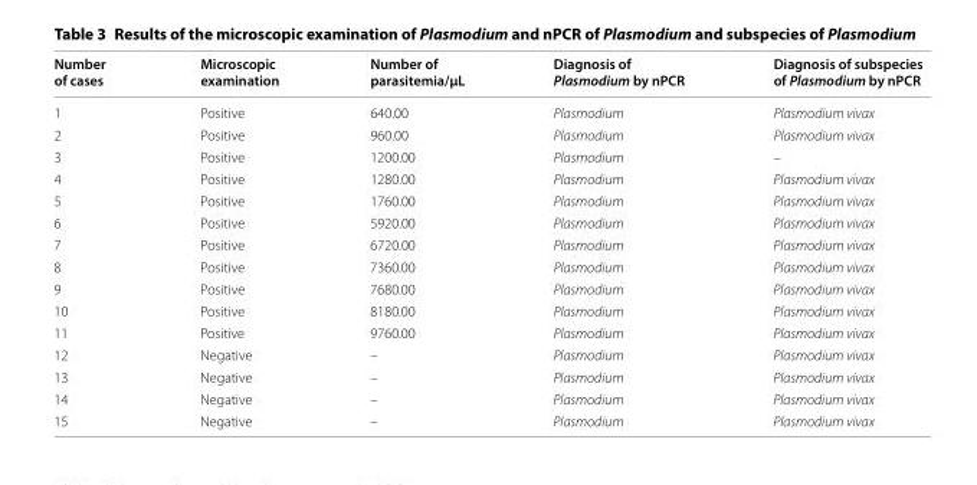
<table><thead><tr><td>Number of cases</td><td>Microscopic examination</td><td>Number of parasitemia/µL</td><td>Diagnosis of Plasmodium by nPCR</td><td>Diagnosis of subspecies of Plasmodium by nPCR</td></tr></thead><tbody><tr><td>1</td><td>Positive</td><td>640.00</td><td>Plasmodium</td><td>Plasmodium vivax</td></tr><tr><td>2</td><td>Positive</td><td>960.00</td><td>Plasmodium</td><td>Plasmodium vivax</td></tr><tr><td>3</td><td>Positive</td><td>1200.00</td><td>Plasmodium</td><td>–</td></tr><tr><td>4</td><td>Positive</td><td>1280.00</td><td>Plasmodium</td><td>Plasmodium vivax</td></tr><tr><td>5</td><td>Positive</td><td>1760.00</td><td>Plasmodium</td><td>Plasmodium vivax</td></tr><tr><td>6</td><td>Positive</td><td>5920.00</td><td>Plasmodium</td><td>Plasmodium vivax</td></tr><tr><td>7</td><td>Positive</td><td>6720.00</td><td>Plasmodium</td><td>Plasmodium vivax</td></tr><tr><td>8</td><td>Positive</td><td>7360.00</td><td>Plasmodium</td><td>Plasmodium vivax</td></tr><tr><td>9</td><td>Positive</td><td>7680.00</td><td>Plasmodium</td><td>Plasmodium vivax</td></tr><tr><td>10</td><td>Positive</td><td>8180.00</td><td>Plasmodium</td><td>Plasmodium vivax</td></tr><tr><td>11</td><td>Positive</td><td>9760.00</td><td>Plasmodium</td><td>Plasmodium vivax</td></tr><tr><td>12</td><td>Negative</td><td>–</td><td>Plasmodium</td><td>Plasmodium vivax</td></tr><tr><td>13</td><td>Negative</td><td>–</td><td>Plasmodium</td><td>Plasmodium vivax</td></tr><tr><td>14</td><td>Negative</td><td>–</td><td>Plasmodium</td><td>Plasmodium vivax</td></tr><tr><td>15</td><td>Negative</td><td>–</td><td>Plasmodium</td><td>Plasmodium vivax</td></tr></tbody></table>